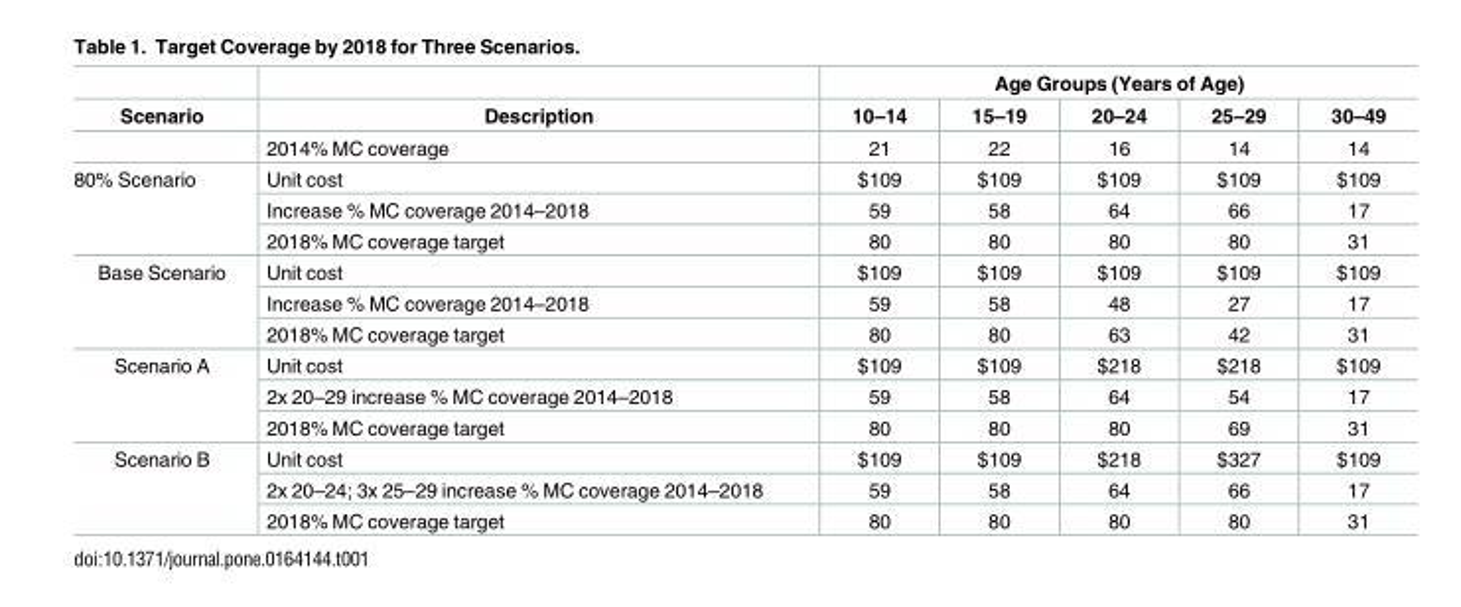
<table><thead><tr><td rowspan="2">Scenario</td><td rowspan="2">Description</td><td colspan="5">Age Groups (Years of Age)</td></tr><tr><td>10–14</td><td>15–19</td><td>20–24</td><td>25–29</td><td>30–49</td></tr></thead><tbody><tr><td></td><td>2014% MC coverage</td><td>21</td><td>22</td><td>16</td><td>14</td><td>14</td></tr><tr><td rowspan="3">80% Scenario</td><td>Unit cost</td><td>$109</td><td>$109</td><td>$109</td><td>$109</td><td>$109</td></tr><tr><td>Increase % MC coverage 2014–2018</td><td>59</td><td>58</td><td>64</td><td>66</td><td>17</td></tr><tr><td>2018% MC coverage target</td><td>80</td><td>80</td><td>80</td><td>80</td><td>31</td></tr><tr><td rowspan="3">Base Scenario</td><td>Unit cost</td><td>$109</td><td>$109</td><td>$109</td><td>$109</td><td>$109</td></tr><tr><td>Increase % MC coverage 2014–2018</td><td>59</td><td>58</td><td>48</td><td>27</td><td>17</td></tr><tr><td>2018% MC coverage target</td><td>80</td><td>80</td><td>63</td><td>42</td><td>31</td></tr><tr><td rowspan="3">Scenario A</td><td>Unit cost</td><td>$109</td><td>$109</td><td>$218</td><td>$218</td><td>$109</td></tr><tr><td>2x 20–29 increase % MC coverage 2014–2018</td><td>59</td><td>58</td><td>64</td><td>54</td><td>17</td></tr><tr><td>2018% MC coverage target</td><td>80</td><td>80</td><td>80</td><td>69</td><td>31</td></tr><tr><td rowspan="3">Scenario B</td><td>Unit cost</td><td>$109</td><td>$109</td><td>$218</td><td>$327</td><td>$109</td></tr><tr><td>2x 20–24; 3x 25–29 increase % MC coverage 2014–2018</td><td>59</td><td>58</td><td>64</td><td>66</td><td>17</td></tr><tr><td>2018% MC coverage target</td><td>80</td><td>80</td><td>80</td><td>80</td><td>31</td></tr></tbody></table>